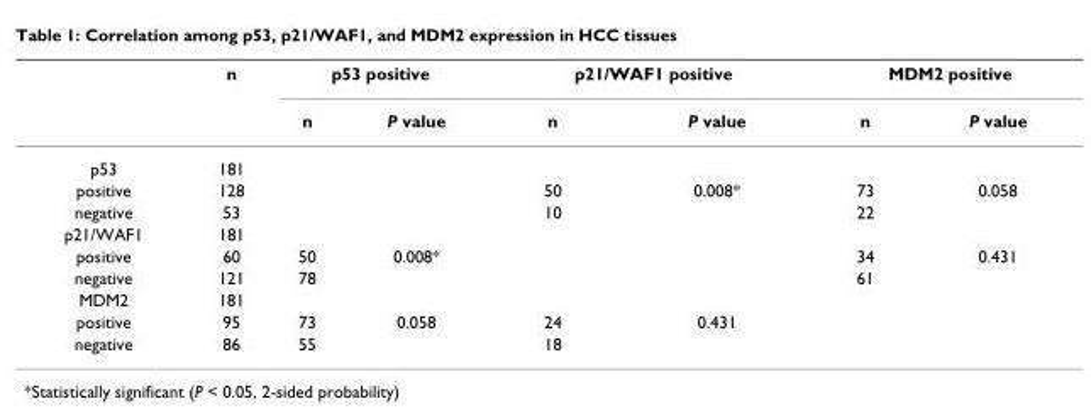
<table><thead><tr><td rowspan="2"></td><td rowspan="2">n</td><td colspan="2">p53 positive</td><td colspan="2">p21/WAF1 positive</td><td colspan="2">MDM2 positive</td></tr><tr><td>n</td><td>P value</td><td>n</td><td>P value</td><td>n</td><td>P value</td></tr></thead><tbody><tr><td>p53</td><td>181</td><td></td><td></td><td></td><td></td><td></td><td></td></tr><tr><td>positive</td><td>128</td><td></td><td></td><td>50</td><td>0.008*</td><td>73</td><td>0.058</td></tr><tr><td>negative</td><td>53</td><td></td><td></td><td>10</td><td></td><td>22</td><td></td></tr><tr><td>p21/WAF1</td><td>181</td><td></td><td></td><td></td><td></td><td></td><td></td></tr><tr><td>positive</td><td>60</td><td>50</td><td>0.008*</td><td></td><td></td><td>34</td><td>0.431</td></tr><tr><td>negative</td><td>121</td><td>78</td><td></td><td></td><td></td><td>61</td><td></td></tr><tr><td>MDM2</td><td>181</td><td></td><td></td><td></td><td></td><td></td><td></td></tr><tr><td>positive</td><td>95</td><td>73</td><td>0.058</td><td>24</td><td>0.431</td><td></td><td></td></tr><tr><td>negative</td><td>86</td><td>55</td><td></td><td>18</td><td></td><td></td><td></td></tr></tbody></table>